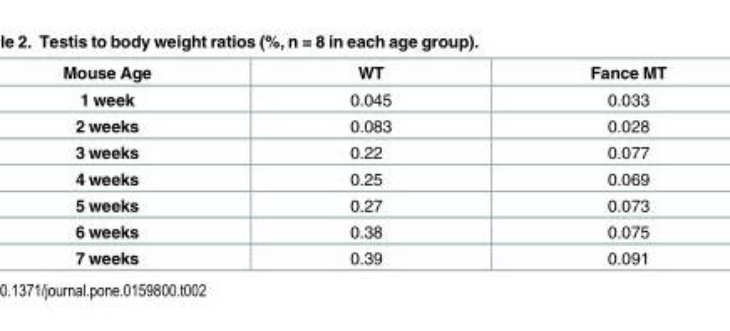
<table><thead><tr><td>Mouse Age</td><td>WT</td><td>Fance MT</td></tr></thead><tbody><tr><td>1 week</td><td>0.045</td><td>0.033</td></tr><tr><td>2 weeks</td><td>0.083</td><td>0.028</td></tr><tr><td>3 weeks</td><td>0.22</td><td>0.077</td></tr><tr><td>4 weeks</td><td>0.25</td><td>0.069</td></tr><tr><td>5 weeks</td><td>0.27</td><td>0.073</td></tr><tr><td>6 weeks</td><td>0.38</td><td>0.075</td></tr><tr><td>7 weeks</td><td>0.39</td><td>0.091</td></tr></tbody></table>